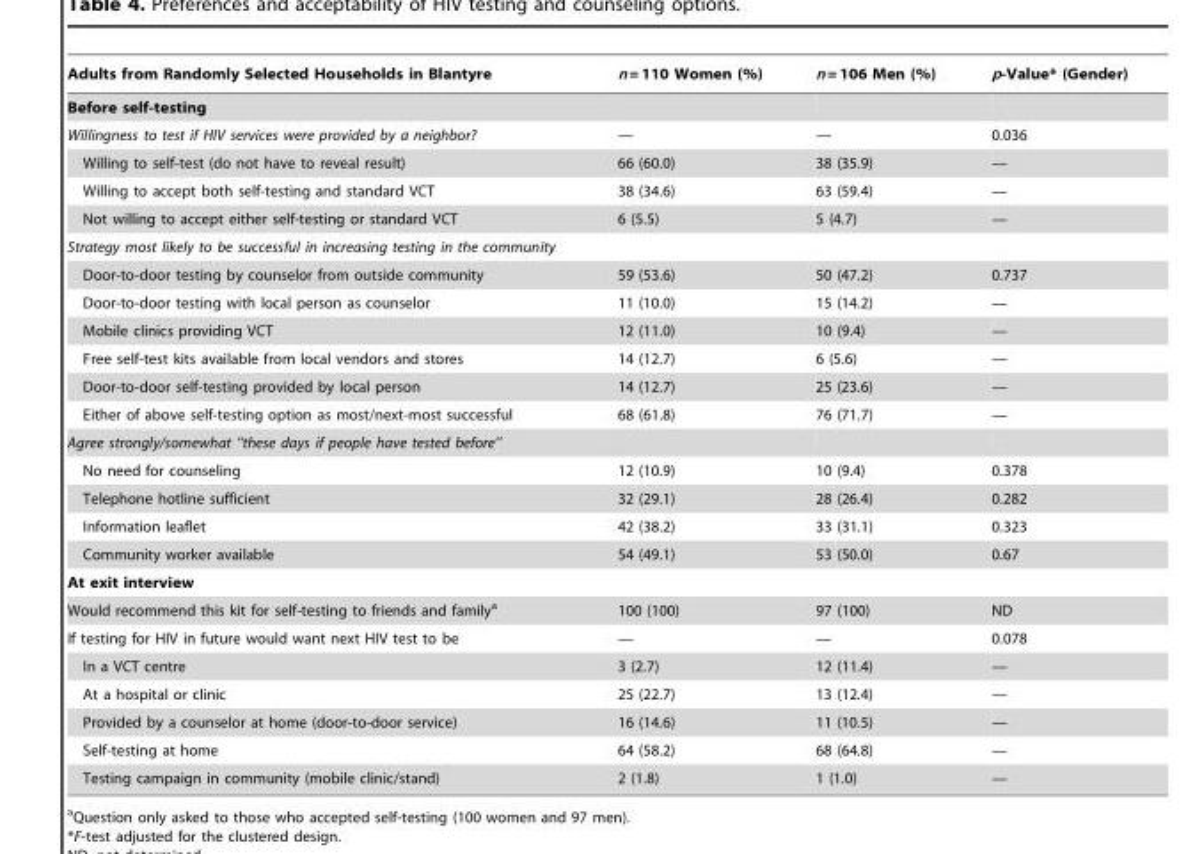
<table><thead><tr><td>Adults from Randomly Selected Households in Blantyre</td><td>n = 110 Women (%)</td><td>n = 106 Men (%)</td><td>p-Value* (Gender)</td></tr></thead><tbody><tr><td colspan="4">Before self-testing</td></tr><tr><td>Willingness to test if HIV services were provided by a neighbor?</td><td>—</td><td>—</td><td>0.036</td></tr><tr><td>Willing to self-test (do not have to reveal result)</td><td>66 (60.0)</td><td>38 (35.9)</td><td>—</td></tr><tr><td>Willing to accept both self-testing and standard VCT</td><td>38 (34.6)</td><td>63 (59.4)</td><td>—</td></tr><tr><td>Not willing to accept either self-testing or standard VCT</td><td>6 (5.5)</td><td>5 (4.7)</td><td>—</td></tr><tr><td colspan="4">Strategy most likely to be successful in increasing testing in the community</td></tr><tr><td>Door-to-door testing by counselor from outside community</td><td>59 (53.6)</td><td>50 (47.2)</td><td>0.737</td></tr><tr><td>Door-to-door testing with local person as counselor</td><td>11 (10.0)</td><td>15 (14.2)</td><td>—</td></tr><tr><td>Mobile clinics providing VCT</td><td>12 (11.0)</td><td>10 (9.4)</td><td>—</td></tr><tr><td>Free self-test kits available from local vendors and stores</td><td>14 (12.7)</td><td>6 (5.6)</td><td>—</td></tr><tr><td>Door-to-door self-testing provided by local person</td><td>14 (12.7)</td><td>25 (23.6)</td><td>—</td></tr><tr><td>Either of above self-testing option as most/next-most successful</td><td>68 (61.8)</td><td>76 (71.7)</td><td>—</td></tr><tr><td colspan="4">Agree strongly/somewhat ‘‘these days if people have tested before’’</td></tr><tr><td>No need for counseling</td><td>12 (10.9)</td><td>10 (9.4)</td><td>0.378</td></tr><tr><td>Telephone hotline sufficient</td><td>32 (29.1)</td><td>28 (26.4)</td><td>0.282</td></tr><tr><td>Information leaflet</td><td>42 (38.2)</td><td>33 (31.1)</td><td>0.323</td></tr><tr><td>Community worker available</td><td>54 (49.1)</td><td>53 (50.0)</td><td>0.67</td></tr><tr><td colspan="4">At exit interview</td></tr><tr><td>Would recommend this kit for self-testing to friends and family<sup>a</sup></td><td>100 (100)</td><td>97 (100)</td><td>ND</td></tr><tr><td>If testing for HIV in future would want next HIV test to be</td><td>—</td><td>—</td><td>0.078</td></tr><tr><td>In a VCT centre</td><td>3 (2.7)</td><td>12 (11.4)</td><td>—</td></tr><tr><td>At a hospital or clinic</td><td>25 (22.7)</td><td>13 (12.4)</td><td>—</td></tr><tr><td>Provided by a counselor at home (door-to-door service)</td><td>16 (14.6)</td><td>11 (10.5)</td><td>—</td></tr><tr><td>Self-testing at home</td><td>64 (58.2)</td><td>68 (64.8)</td><td>—</td></tr><tr><td>Testing campaign in community (mobile clinic/stand)</td><td>2 (1.8)</td><td>1 (1.0)</td><td>—</td></tr></tbody></table>